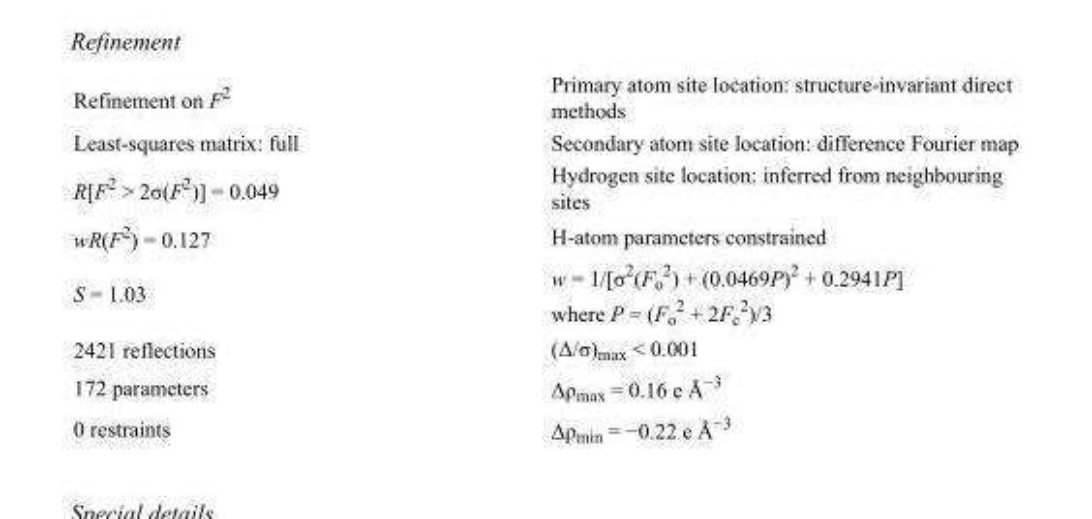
<table><tbody><tr><td>Refinement on F<sup>2</sup></td><td>Primary atom site location: structure-invariant direct methods</td></tr><tr><td>Least-squares matrix: full</td><td>Secondary atom site location: difference Fourier map</td></tr><tr><td>R[F<sup>2</sup> &gt; 2σ(F<sup>2</sup>)] = 0.049</td><td>Hydrogen site location: inferred from neighbouring sites</td></tr><tr><td>wR(F<sup>2</sup>) = 0.127</td><td>H-atom parameters constrained</td></tr><tr><td>S = 1.03</td><td>w = 1/[σ<sup>2</sup>(F<sub>o</sub> <sup>2</sup>) + (0.0469P)<sup>2</sup> + 0.2941P] where P = (F<sub>o</sub> <sup>2</sup> + 2F<sub>c</sub> <sup>2</sup>)/3</td></tr><tr><td>2421 reflections</td><td>(Δ/σ)<sub>max</sub> &lt; 0.001</td></tr><tr><td>172 parameters</td><td>Δρ<sub>max</sub> = 0.16 e Å<sup>−3</sup></td></tr><tr><td>0 restraints</td><td>Δρ<sub>min</sub> = −0.22 e Å<sup>−3</sup></td></tr></tbody></table>